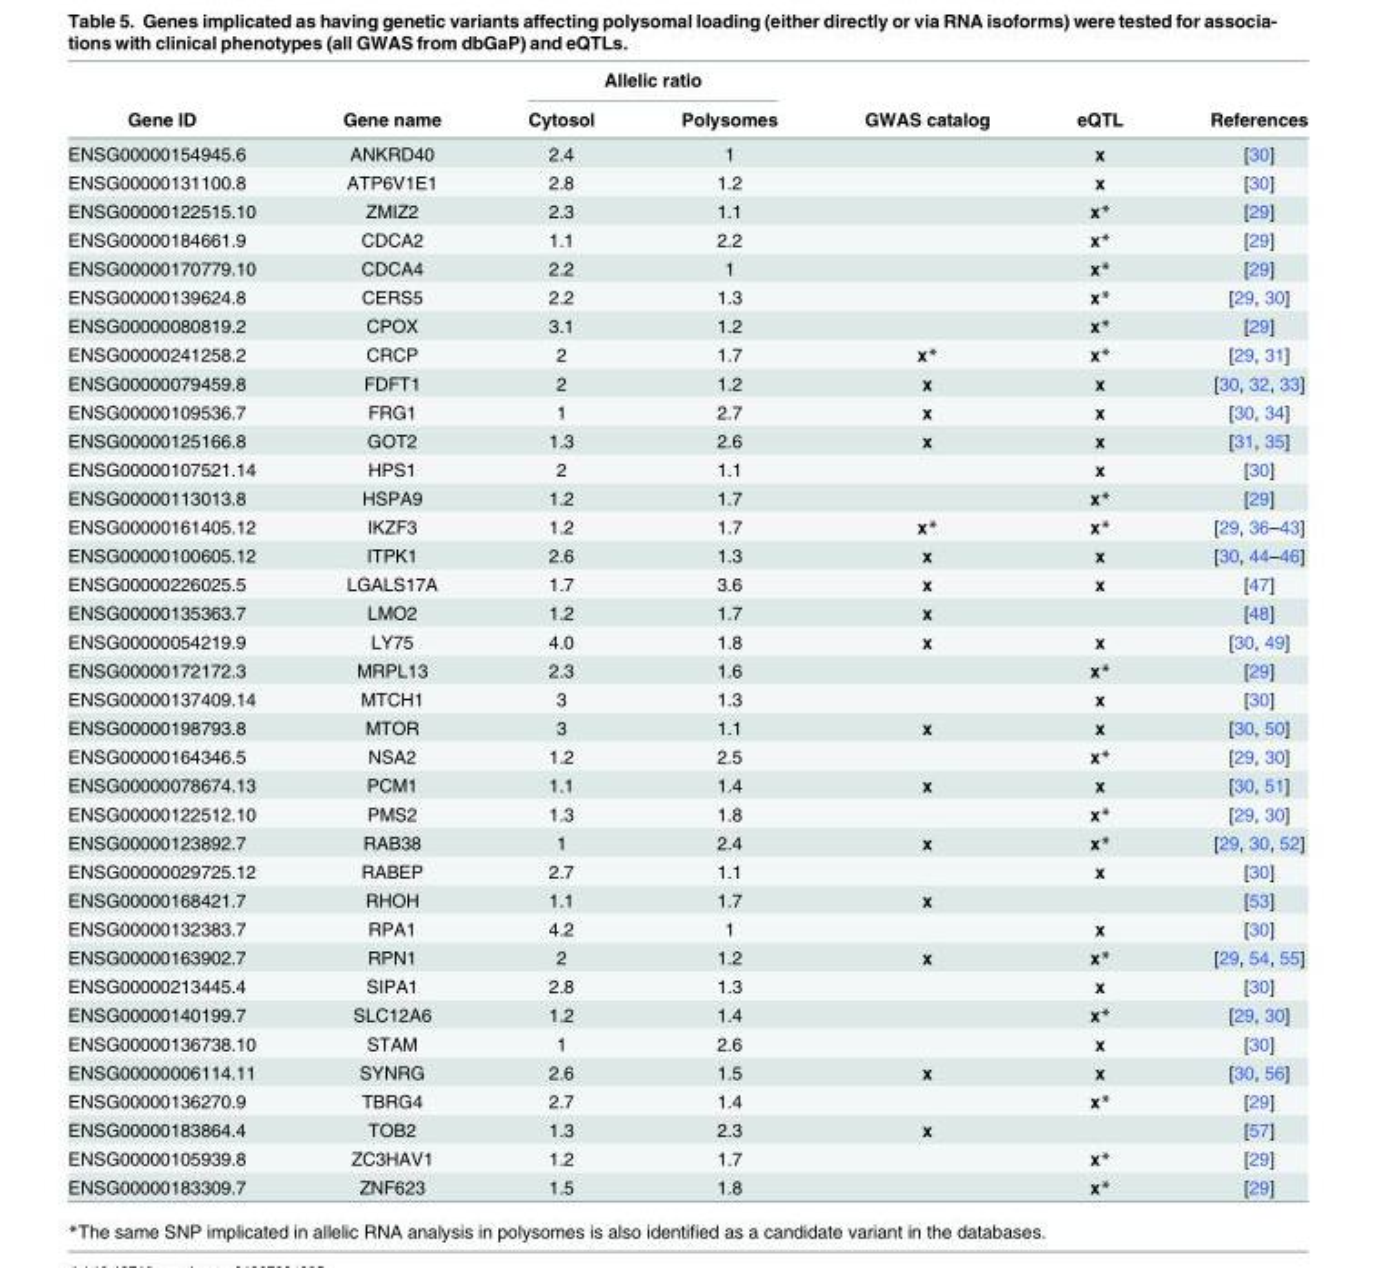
<table><thead><tr><td rowspan="2">Gene ID</td><td rowspan="2">Gene name</td><td colspan="2">Allelic ratio</td><td rowspan="2">GWAS catalog</td><td rowspan="2">eQTL</td><td rowspan="2">References</td></tr><tr><td>Cytosol</td><td>Polysomes</td></tr></thead><tbody><tr><td>ENSG00000154945.6</td><td>ANKRD40</td><td>2.4</td><td>1</td><td></td><td>x</td><td>[30]</td></tr><tr><td>ENSG00000131100.8</td><td>ATP6V1E1</td><td>2.8</td><td>1.2</td><td></td><td>x</td><td>[30]</td></tr><tr><td>ENSG00000122515.10</td><td>ZMIZ2</td><td>2.3</td><td>1.1</td><td></td><td>x*</td><td>[29]</td></tr><tr><td>ENSG00000184661.9</td><td>CDCA2</td><td>1.1</td><td>2.2</td><td></td><td>x*</td><td>[29]</td></tr><tr><td>ENSG00000170779.10</td><td>CDCA4</td><td>2.2</td><td>1</td><td></td><td>x*</td><td>[29]</td></tr><tr><td>ENSG00000139624.8</td><td>CERS5</td><td>2.2</td><td>1.3</td><td></td><td>x*</td><td>[29, 30]</td></tr><tr><td>ENSG00000080819.2</td><td>CPOX</td><td>3.1</td><td>1.2</td><td></td><td>x*</td><td>[29]</td></tr><tr><td>ENSG00000241258.2</td><td>CRCP</td><td>2</td><td>1.7</td><td>x*</td><td>x*</td><td>[29, 31]</td></tr><tr><td>ENSG00000079459.8</td><td>FDFT1</td><td>2</td><td>1.2</td><td>x</td><td>x</td><td>[30, 32, 33]</td></tr><tr><td>ENSG00000109536.7</td><td>FRG1</td><td>1</td><td>2.7</td><td>x</td><td>x</td><td>[30, 34]</td></tr><tr><td>ENSG00000125166.8</td><td>GOT2</td><td>1.3</td><td>2.6</td><td>x</td><td>x</td><td>[31, 35]</td></tr><tr><td>ENSG00000107521.14</td><td>HPS1</td><td>2</td><td>1.1</td><td></td><td>x</td><td>[30]</td></tr><tr><td>ENSG00000113013.8</td><td>HSPA9</td><td>1.2</td><td>1.7</td><td></td><td>x*</td><td>[29]</td></tr><tr><td>ENSG00000161405.12</td><td>IKZF3</td><td>1.2</td><td>1.7</td><td>x*</td><td>x*</td><td>[29, 36–43]</td></tr><tr><td>ENSG00000100605.12</td><td>ITPK1</td><td>2.6</td><td>1.3</td><td>x</td><td>x</td><td>[30, 44–46]</td></tr><tr><td>ENSG00000226025.5</td><td>LGALS17A</td><td>1.7</td><td>3.6</td><td>x</td><td>x</td><td>[47]</td></tr><tr><td>ENSG00000135363.7</td><td>LMO2</td><td>1.2</td><td>1.7</td><td>x</td><td></td><td>[48]</td></tr><tr><td>ENSG00000054219.9</td><td>LY75</td><td>4.0</td><td>1.8</td><td>x</td><td>x</td><td>[30, 49]</td></tr><tr><td>ENSG00000172172.3</td><td>MRPL13</td><td>2.3</td><td>1.6</td><td></td><td>x*</td><td>[29]</td></tr><tr><td>ENSG00000137409.14</td><td>MTCH1</td><td>3</td><td>1.3</td><td></td><td>x</td><td>[30]</td></tr><tr><td>ENSG00000198793.8</td><td>MTOR</td><td>3</td><td>1.1</td><td>x</td><td>x</td><td>[30, 50]</td></tr><tr><td>ENSG00000164346.5</td><td>NSA2</td><td>1.2</td><td>2.5</td><td></td><td>x*</td><td>[29, 30]</td></tr><tr><td>ENSG00000078674.13</td><td>PCM1</td><td>1.1</td><td>1.4</td><td>x</td><td>x</td><td>[30, 51]</td></tr><tr><td>ENSG00000122512.10</td><td>PMS2</td><td>1.3</td><td>1.8</td><td></td><td>x*</td><td>[29, 30]</td></tr><tr><td>ENSG00000123892.7</td><td>RAB38</td><td>1</td><td>2.4</td><td>x</td><td>x*</td><td>[29, 30, 52]</td></tr><tr><td>ENSG00000029725.12</td><td>RABEP</td><td>2.7</td><td>1.1</td><td></td><td>x</td><td>[30]</td></tr><tr><td>ENSG00000168421.7</td><td>RHOH</td><td>1.1</td><td>1.7</td><td>x</td><td></td><td>[53]</td></tr><tr><td>ENSG00000132383.7</td><td>RPA1</td><td>4.2</td><td>1</td><td></td><td>x</td><td>[30]</td></tr><tr><td>ENSG00000163902.7</td><td>RPN1</td><td>2</td><td>1.2</td><td>x</td><td>x*</td><td>[29, 54, 55]</td></tr><tr><td>ENSG00000213445.4</td><td>SIPA1</td><td>2.8</td><td>1.3</td><td></td><td>x</td><td>[30]</td></tr><tr><td>ENSG00000140199.7</td><td>SLC12A6</td><td>1.2</td><td>1.4</td><td></td><td>x*</td><td>[29, 30]</td></tr><tr><td>ENSG00000136738.10</td><td>STAM</td><td>1</td><td>2.6</td><td></td><td>x</td><td>[30]</td></tr><tr><td>ENSG00000006114.11</td><td>SYNRG</td><td>2.6</td><td>1.5</td><td>x</td><td>x</td><td>[30, 56]</td></tr><tr><td>ENSG00000136270.9</td><td>TBRG4</td><td>2.7</td><td>1.4</td><td></td><td>x*</td><td>[29]</td></tr><tr><td>ENSG00000183864.4</td><td>TOB2</td><td>1.3</td><td>2.3</td><td>x</td><td></td><td>[57]</td></tr><tr><td>ENSG00000105939.8</td><td>ZC3HAV1</td><td>1.2</td><td>1.7</td><td></td><td>x*</td><td>[29]</td></tr><tr><td>ENSG00000183309.7</td><td>ZNF623</td><td>1.5</td><td>1.8</td><td></td><td>x*</td><td>[29]</td></tr></tbody></table>